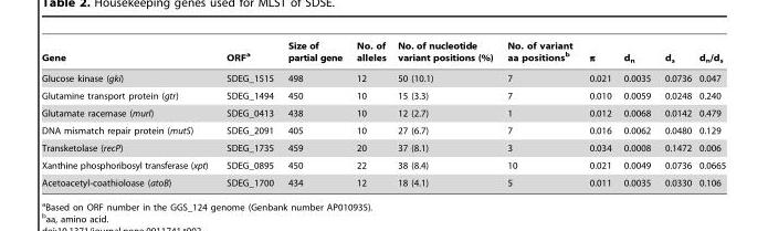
<table><thead><tr><td>Gene</td><td>ORF<sup>a</sup></td><td>Size of partial gene</td><td>No. of alleles</td><td>No. of nucleotide variant positions (%)</td><td>No. of variant aa positions<sup>b</sup></td><td>π</td><td>d<sub>n</sub></td><td>d<sub>s</sub></td><td>d<sub>n</sub>/d<sub>s</sub></td></tr></thead><tbody><tr><td>Glucose kinase (gki)</td><td>SDEG_1515</td><td>498</td><td>12</td><td>50 (10.1)</td><td>7</td><td>0.021</td><td>0.0035</td><td>0.0736</td><td>0.047</td></tr><tr><td>Glutamine transport protein (gtr)</td><td>SDEG_1494</td><td>450</td><td>10</td><td>15 (3.3)</td><td>7</td><td>0.010</td><td>0.0059</td><td>0.0248</td><td>0.240</td></tr><tr><td>Glutamate racemase (murI)</td><td>SDEG_0413</td><td>438</td><td>10</td><td>12 (2.7)</td><td>1</td><td>0.012</td><td>0.0068</td><td>0.0142</td><td>0.479</td></tr><tr><td>DNA mismatch repair protein (mutS)</td><td>SDEG_2091</td><td>405</td><td>10</td><td>27 (6.7)</td><td>7</td><td>0.016</td><td>0.0062</td><td>0.0480</td><td>0.129</td></tr><tr><td>Transketolase (recP)</td><td>SDEG_1735</td><td>459</td><td>20</td><td>37 (8.1)</td><td>3</td><td>0.034</td><td>0.0008</td><td>0.1472</td><td>0.006</td></tr><tr><td>Xanthine phosphoribosyl transferase (xpt)</td><td>SDEG_0895</td><td>450</td><td>22</td><td>38 (8.4)</td><td>10</td><td>0.021</td><td>0.0049</td><td>0.0736</td><td>0.0665</td></tr><tr><td>Acetoacetyl-coathioloase (atoB)</td><td>SDEG_1700</td><td>434</td><td>12</td><td>18 (4.1)</td><td>5</td><td>0.011</td><td>0.0035</td><td>0.0330</td><td>0.106</td></tr></tbody></table>